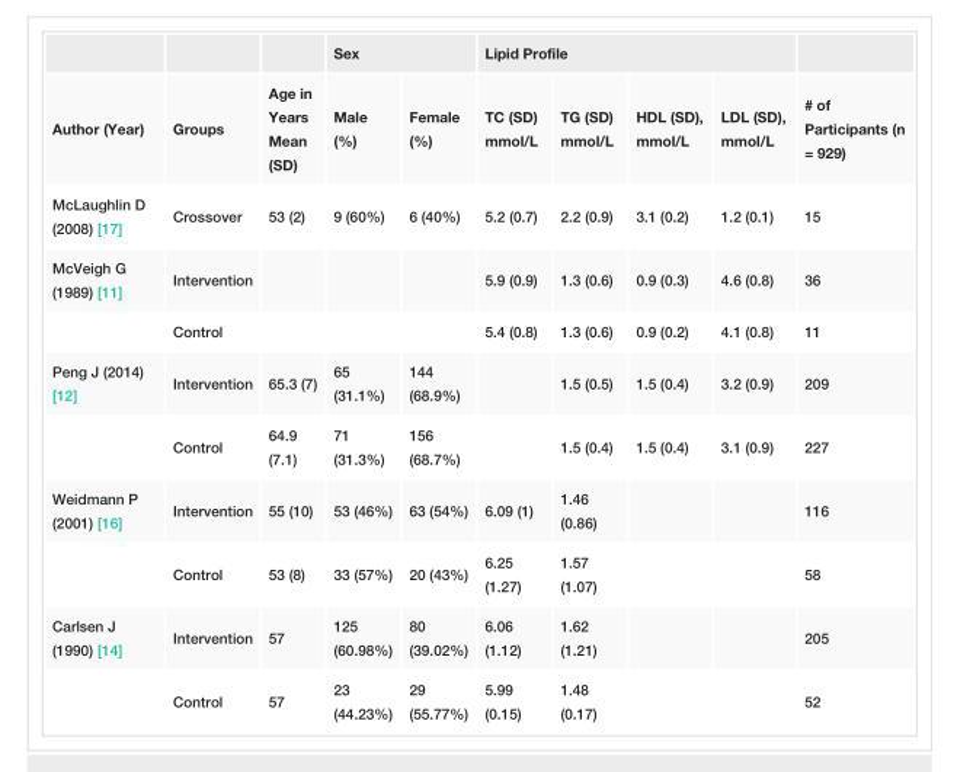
<table><thead><tr><td rowspan="2">Author (Year)</td><td rowspan="2">Groups</td><td rowspan="2">Age in Years Mean (SD)</td><td colspan="2">Sex</td><td colspan="4">Lipid Profile</td><td rowspan="2"># of Participants (n = 929)</td></tr><tr><td>Male (%)</td><td>Female (%)</td><td>TC (SD) mmol/L</td><td>TG (SD) mmol/L</td><td>HDL (SD), mmol/L</td><td>LDL (SD), mmol/L</td></tr></thead><tbody><tr><td>McLaughlin D (2008) [17]</td><td>Crossover</td><td>53 (2)</td><td>9 (60%)</td><td>6 (40%)</td><td>5.2 (0.7)</td><td>2.2 (0.9)</td><td>3.1 (0.2)</td><td>1.2 (0.1)</td><td>15</td></tr><tr><td rowspan="2">McVeigh G (1989) [11]</td><td>Intervention</td><td></td><td></td><td></td><td>5.9 (0.9)</td><td>1.3 (0.6)</td><td>0.9 (0.3)</td><td>4.6 (0.8)</td><td>36</td></tr><tr><td>Control</td><td></td><td></td><td></td><td>5.4 (0.8)</td><td>1.3 (0.6)</td><td>0.9 (0.2)</td><td>4.1 (0.8)</td><td>11</td></tr><tr><td rowspan="2">Peng J (2014) [12]</td><td>Intervention</td><td>65.3 (7)</td><td>65 (31.1%)</td><td>144 (68.9%)</td><td></td><td>1.5 (0.5)</td><td>1.5 (0.4)</td><td>3.2 (0.9)</td><td>209</td></tr><tr><td>Control</td><td>64.9 (7.1)</td><td>71 (31.3%)</td><td>156 (68.7%)</td><td></td><td>1.5 (0.4)</td><td>1.5 (0.4)</td><td>3.1 (0.9)</td><td>227</td></tr><tr><td rowspan="2">Weidmann P (2001) [16]</td><td>Intervention</td><td>55 (10)</td><td>53 (46%)</td><td>63 (54%)</td><td>6.09 (1)</td><td>1.46 (0.86)</td><td></td><td></td><td>116</td></tr><tr><td>Control</td><td>53 (8)</td><td>33 (57%)</td><td>20 (43%)</td><td>6.25 (1.27)</td><td>1.57 (1.07)</td><td></td><td></td><td>58</td></tr><tr><td rowspan="2">Carlsen J (1990) [14]</td><td>Intervention</td><td>57</td><td>125 (60.98%)</td><td>80 (39.02%)</td><td>6.06 (1.12)</td><td>1.62 (1.21)</td><td></td><td></td><td>205</td></tr><tr><td>Control</td><td>57</td><td>23 (44.23%)</td><td>29 (55.77%)</td><td>5.99 (0.15)</td><td>1.48 (0.17)</td><td></td><td></td><td>52</td></tr></tbody></table>